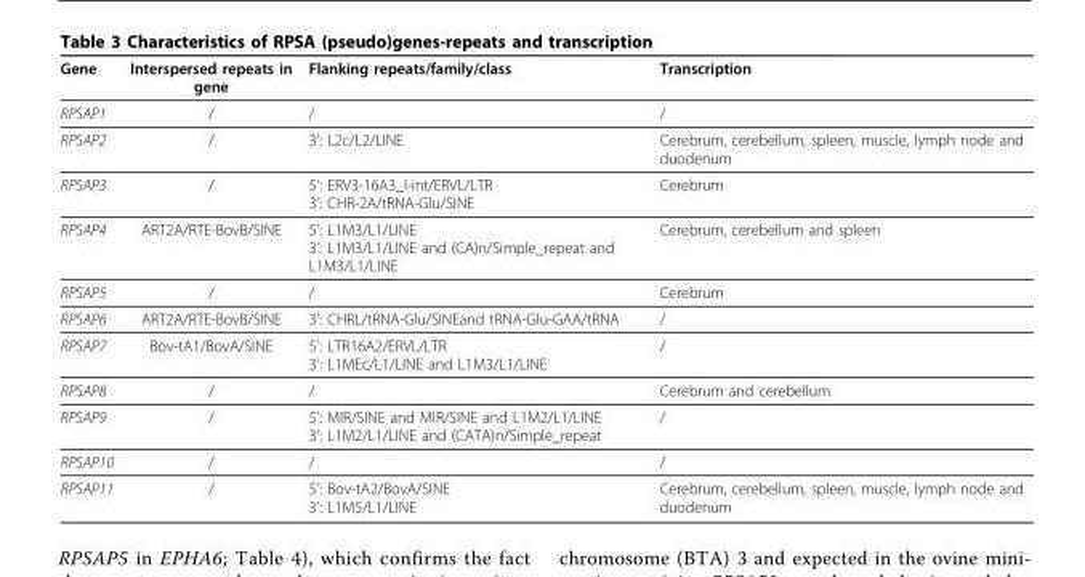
<table><thead><tr><td>Gene</td><td>Interspersed repeats in gene</td><td>Flanking repeats/family/class</td><td>Transcription</td></tr></thead><tbody><tr><td>RPSAP1</td><td>/</td><td>/</td><td>/</td></tr><tr><td>RPSAP2</td><td>/</td><td>3’: L2c/L2/LINE</td><td>Cerebrum, cerebellum, spleen, muscle, lymph node and duodenum</td></tr><tr><td>RPSAP3</td><td>/</td><td>5’: ERV3-16A3_I-int/ERVL/LTR 3’: CHR-2A/tRNA-Glu/SINE</td><td>Cerebrum</td></tr><tr><td>RPSAP4</td><td>ART2A/RTE-BovB/SINE</td><td>5’: L1M3/L1/LINE 3’: L1M3/L1/LINE and (CA)n/Simple_repeat and L1M3/L1/LINE</td><td>Cerebrum, cerebellum and spleen</td></tr><tr><td>RPSAP5</td><td>/</td><td>/</td><td>Cerebrum</td></tr><tr><td>RPSAP6</td><td>ART2A/RTE-BovB/SINE</td><td>3’: CHRL/tRNA-Glu/SINEand tRNA-Glu-GAA/tRNA</td><td>/</td></tr><tr><td>RPSAP7</td><td>Bov-tA1/BovA/SINE</td><td>5’: LTR16A2/ERVL/LTR 3’: L1MEc/L1/LINE and L1M3/L1/LINE</td><td>/</td></tr><tr><td>RPSAP8</td><td>/</td><td>/</td><td>Cerebrum and cerebellum</td></tr><tr><td>RPSAP9</td><td>/</td><td>5’: MIR/SINE and MIR/SINE and L1M2/L1/LINE 3’: L1M2/L1/LINE and (CATA)n/Simple_repeat</td><td>/</td></tr><tr><td>RPSAP10</td><td>/</td><td>/</td><td>/</td></tr><tr><td>RPSAP11</td><td>/</td><td>5’: Bov-tA2/BovA/SINE 3’: L1M5/L1/LINE</td><td>Cerebrum, cerebellum, spleen, muscle, lymph node and duodenum</td></tr></tbody></table>